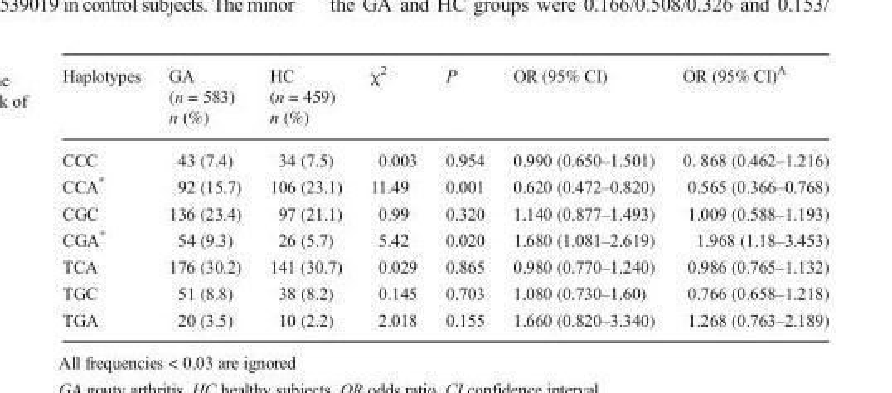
<table><thead><tr><td rowspan="2">Haplotypes</td><td rowspan="2">GA (n = 583) n (%)</td><td rowspan="2">HC (n = 459) n (%)</td><td rowspan="2">χ<sup>2</sup></td><td rowspan="2">P</td><td rowspan="2">OR (95% CI)</td><td rowspan="2">OR (95% CI)<sup>A</sup></td></tr><tr></tr></thead><tbody><tr><td>CCC</td><td>43 (7.4)</td><td>34 (7.5)</td><td>0.003</td><td>0.954</td><td>0.990 (0.650–1.501)</td><td>0. 868 (0.462–1.216)</td></tr><tr><td>CCA*</td><td>92 (15.7)</td><td>106 (23.1)</td><td>11.49</td><td>0.001</td><td>0.620 (0.472–0.820)</td><td>0.565 (0.366–0.768)</td></tr><tr><td>CGC</td><td>136 (23.4)</td><td>97 (21.1)</td><td>0.99</td><td>0.320</td><td>1.140 (0.877–1.493)</td><td>1.009 (0.588–1.193)</td></tr><tr><td>CGA*</td><td>54 (9.3)</td><td>26 (5.7)</td><td>5.42</td><td>0.020</td><td>1.680 (1.081–2.619)</td><td>1.968 (1.18–3.453)</td></tr><tr><td>TCA</td><td>176 (30.2)</td><td>141 (30.7)</td><td>0.029</td><td>0.865</td><td>0.980 (0.770–1.240)</td><td>0.986 (0.765–1.132)</td></tr><tr><td>TGC</td><td>51 (8.8)</td><td>38 (8.2)</td><td>0.145</td><td>0.703</td><td>1.080 (0.730–1.60)</td><td>0.766 (0.658–1.218)</td></tr><tr><td>TGA</td><td>20 (3.5)</td><td>10 (2.2)</td><td>2.018</td><td>0.155</td><td>1.660 (0.820–3.340)</td><td>1.268 (0.763–2.189)</td></tr></tbody></table>